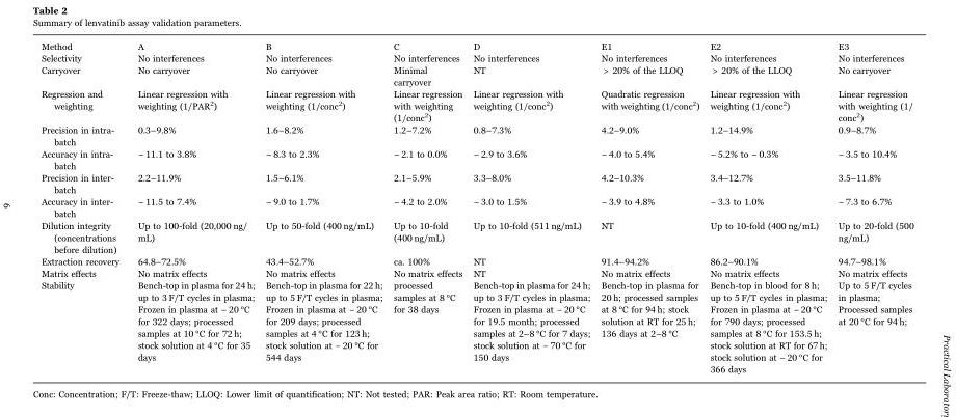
<table><tbody><tr><td>Method</td><td>A</td><td>B</td><td>C</td><td>D</td><td>E1</td><td>E2</td><td>E3</td></tr><tr><td>Selectivity</td><td>No interferences</td><td>No interferences</td><td>No interferences</td><td>No interferences</td><td>No interferences</td><td>No interferences</td><td>No interferences</td></tr><tr><td>Carryover</td><td>No carryover</td><td>No carryover</td><td>Minimal carryover</td><td>NT</td><td>&gt; 20% of the LLOQ</td><td>&gt; 20% of the LLOQ</td><td>No carryover</td></tr><tr><td>Regression and weighting</td><td>Linear regression with weighting (1/PAR<sup>2</sup>)</td><td>Linear regression with weighting (1/conc<sup>2</sup>)</td><td>Linear regression with weighting (1/conc<sup>2</sup>)</td><td>Linear regression with weighting (1/conc<sup>2</sup>)</td><td>Quadratic regression with weighting (1/conc<sup>2</sup>)</td><td>Linear regression with weighting (1/conc<sup>2</sup>)</td><td>Linear regression with weighting (1/ conc<sup>2</sup>)</td></tr><tr><td>Precision in intra- batch</td><td>0.3–9.8%</td><td>1.6–8.2%</td><td>1.2–7.2%</td><td>0.8–7.3%</td><td>4.2–9.0%</td><td>1.2–14.9%</td><td>0.9–8.7%</td></tr><tr><td>Accuracy in intra- batch</td><td>− 11.1 to 3.8%</td><td>− 8.3 to 2.3%</td><td>− 2.1 to 0.0%</td><td>− 2.9 to 3.6%</td><td>− 4.0 to 5.4%</td><td>− 5.2% to − 0.3%</td><td>− 3.5 to 10.4%</td></tr><tr><td>Precision in inter- batch</td><td>2.2–11.9%</td><td>1.5–6.1%</td><td>2.1–5.9%</td><td>3.3–8.0%</td><td>4.2–10.3%</td><td>3.4–12.7%</td><td>3.5–11.8%</td></tr><tr><td>Accuracy in inter- batch</td><td>− 11.5 to 7.4%</td><td>− 9.0 to 1.7%</td><td>− 4.2 to 2.0%</td><td>− 3.0 to 1.5%</td><td>− 3.9 to 4.8%</td><td>− 3.3 to 1.0%</td><td>− 7.3 to 6.7%</td></tr><tr><td>Dilution integrity (concentrations before dilution)</td><td>Up to 100-fold (20,000 ng/ mL)</td><td>Up to 50-fold (400 ng/mL)</td><td>Up to 10-fold (400 ng/mL)</td><td>Up to 10-fold (511 ng/mL)</td><td>NT</td><td>Up to 10-fold (400 ng/mL)</td><td>Up to 20-fold (500 ng/mL)</td></tr><tr><td>Extraction recovery</td><td>64.8–72.5%</td><td>43.4–52.7%</td><td>ca. 100%</td><td>NT</td><td>91.4–94.2%</td><td>86.2–90.1%</td><td>94.7–98.1%</td></tr><tr><td>Matrix effects</td><td>No matrix effects</td><td>No matrix effects</td><td>No matrix effects</td><td>NT</td><td>No matrix effects</td><td>No matrix effects</td><td>No matrix effects</td></tr><tr><td>Stability</td><td>Bench-top in plasma for 24 h; up to 3 F/T cycles in plasma; Frozen in plasma at − 20 °C for 322 days; processed samples at 10 °C for 72 h; stock solution at 4 °C for 35 days</td><td>Bench-top in plasma for 22 h; up to 5 F/T cycles in plasma; Frozen in plasma at − 20 °C for 209 days; processed samples at 4 °C for 123 h; stock solution at − 20 °C for 544 days</td><td>processed samples at 8 °C for 38 days</td><td>Bench-top in plasma for 24 h; up to 3 F/T cycles in plasma; Frozen in plasma at − 20 °C for 19.5 month; processed samples at 2–8 °C for 7 days; stock solution at − 70 °C for 150 days</td><td>Bench-top in plasma for 20 h; processed samples at 8 °C for 94 h; stock solution at RT for 25 h; 136 days at 2–8 °C</td><td>Bench-top in blood for 8 h; up to 5 F/T cycles in plasma; Frozen in plasma at − 20 °C for 790 days; processed samples at 8 °C for 153.5 h; stock solution at RT for 67 h; stock solution at − 20 °C for 366 days</td><td>Up to 5 F/T cycles in plasma; Processed samples at 20 °C for 94 h;</td></tr></tbody></table>